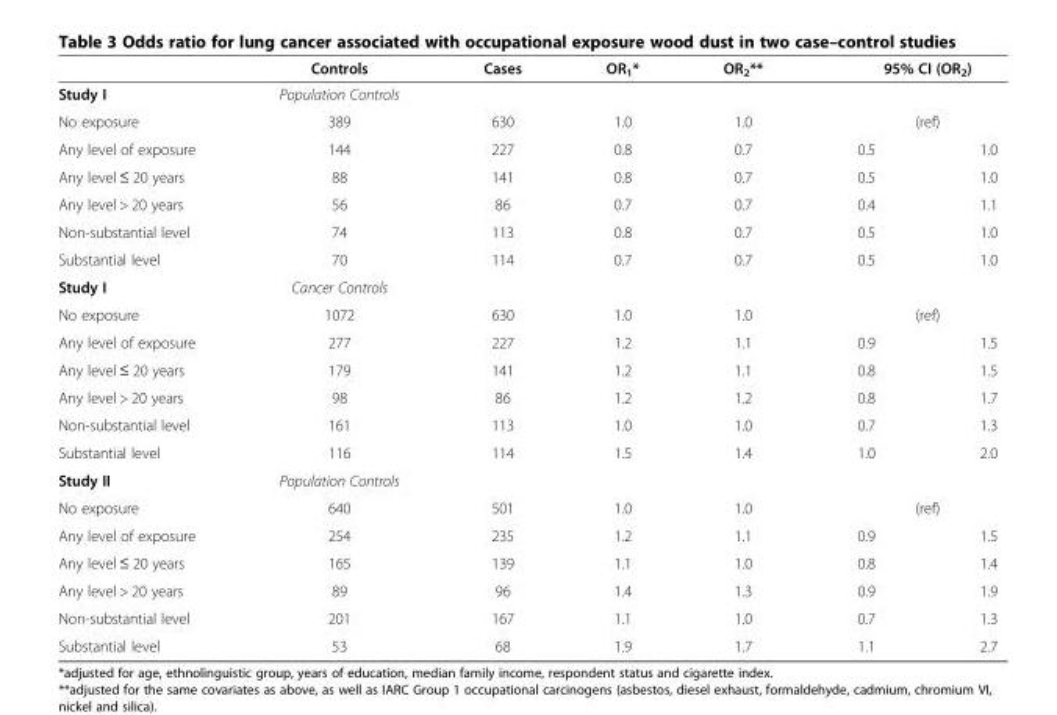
<table><thead><tr><td rowspan="2">Study I</td><td rowspan="2">Controls Population Controls</td><td rowspan="2">Cases</td><td rowspan="2">OR<sub>1</sub>*</td><td rowspan="2">OR<sub>2</sub>**</td><td colspan="2">95% CI (OR<sub>2</sub>)</td></tr><tr><td></td><td></td></tr></thead><tbody><tr><td>No exposure</td><td>389</td><td>630</td><td>1.0</td><td>1.0</td><td colspan="2">(ref)</td></tr><tr><td>Any level of exposure</td><td>144</td><td>227</td><td>0.8</td><td>0.7</td><td>0.5</td><td>1.0</td></tr><tr><td>Any level ≤ 20 years</td><td>88</td><td>141</td><td>0.8</td><td>0.7</td><td>0.5</td><td>1.0</td></tr><tr><td>Any level &gt; 20 years</td><td>56</td><td>86</td><td>0.7</td><td>0.7</td><td>0.4</td><td>1.1</td></tr><tr><td>Non-substantial level</td><td>74</td><td>113</td><td>0.8</td><td>0.7</td><td>0.5</td><td>1.0</td></tr><tr><td>Substantial level</td><td>70</td><td>114</td><td>0.7</td><td>0.7</td><td>0.5</td><td>1.0</td></tr><tr><td>Study I</td><td>Cancer Controls</td><td></td><td></td><td></td><td colspan="2"></td></tr><tr><td>No exposure</td><td>1072</td><td>630</td><td>1.0</td><td>1.0</td><td colspan="2">(ref)</td></tr><tr><td>Any level of exposure</td><td>277</td><td>227</td><td>1.2</td><td>1.1</td><td>0.9</td><td>1.5</td></tr><tr><td>Any level ≤ 20 years</td><td>179</td><td>141</td><td>1.2</td><td>1.1</td><td>0.8</td><td>1.5</td></tr><tr><td>Any level &gt; 20 years</td><td>98</td><td>86</td><td>1.2</td><td>1.2</td><td>0.8</td><td>1.7</td></tr><tr><td>Non-substantial level</td><td>161</td><td>113</td><td>1.0</td><td>1.0</td><td>0.7</td><td>1.3</td></tr><tr><td>Substantial level</td><td>116</td><td>114</td><td>1.5</td><td>1.4</td><td>1.0</td><td>2.0</td></tr><tr><td>Study II</td><td>Population Controls</td><td></td><td></td><td></td><td colspan="2"></td></tr><tr><td>No exposure</td><td>640</td><td>501</td><td>1.0</td><td>1.0</td><td colspan="2">(ref)</td></tr><tr><td>Any level of exposure</td><td>254</td><td>235</td><td>1.2</td><td>1.1</td><td>0.9</td><td>1.5</td></tr><tr><td>Any level ≤ 20 years</td><td>165</td><td>139</td><td>1.1</td><td>1.0</td><td>0.8</td><td>1.4</td></tr><tr><td>Any level &gt; 20 years</td><td>89</td><td>96</td><td>1.4</td><td>1.3</td><td>0.9</td><td>1.9</td></tr><tr><td>Non-substantial level</td><td>201</td><td>167</td><td>1.1</td><td>1.0</td><td>0.7</td><td>1.3</td></tr><tr><td>Substantial level</td><td>53</td><td>68</td><td>1.9</td><td>1.7</td><td>1.1</td><td>2.7</td></tr></tbody></table>